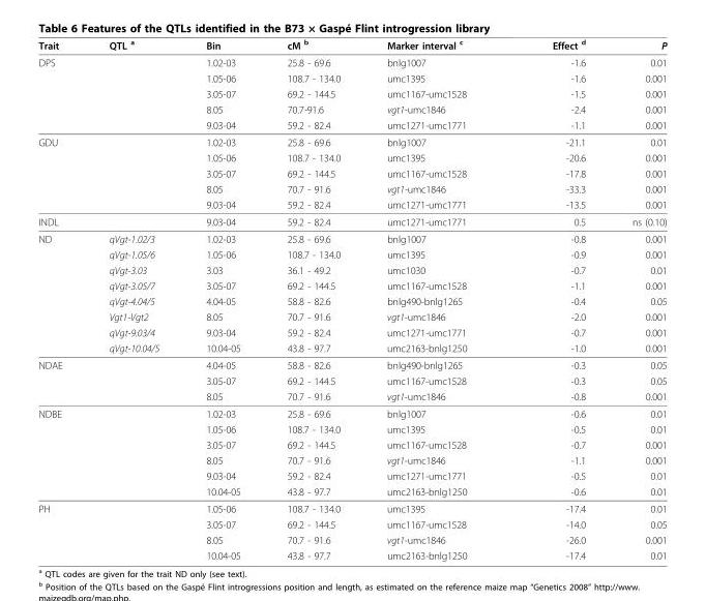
<table><thead><tr><td>Trait</td><td>QTL <sup>a</sup></td><td>Bin</td><td>cM <sup>b</sup></td><td>Marker interval <sup>c</sup></td><td>Effect <sup>d</sup></td><td>P</td></tr></thead><tbody><tr><td rowspan="5">DPS</td><td></td><td>1.02-03</td><td>25.8 - 69.6</td><td>bnlg1007</td><td>-1.6</td><td>0.01</td></tr><tr><td></td><td>1.05-06</td><td>108.7 - 134.0</td><td>umc1395</td><td>-1.6</td><td>0.001</td></tr><tr><td></td><td>3.05-07</td><td>69.2 - 144.5</td><td>umc1167-umc1528</td><td>-1.5</td><td>0.001</td></tr><tr><td></td><td>8.05</td><td>70.7-91.6</td><td>vgt1-umc1846</td><td>-2.4</td><td>0.001</td></tr><tr><td></td><td>9.03-04</td><td>59.2 - 82.4</td><td>umc1271-umc1771</td><td>-1.1</td><td>0.001</td></tr><tr><td rowspan="5">GDU</td><td></td><td>1.02-03</td><td>25.8 - 69.6</td><td>bnlg1007</td><td>-21.1</td><td>0.01</td></tr><tr><td></td><td>1.05-06</td><td>108.7 - 134.0</td><td>umc1395</td><td>-20.6</td><td>0.001</td></tr><tr><td></td><td>3.05-07</td><td>69.2 - 144.5</td><td>umc1167-umc1528</td><td>-17.8</td><td>0.001</td></tr><tr><td></td><td>8.05</td><td>70.7 - 91.6</td><td>vgt1-umc1846</td><td>-33.3</td><td>0.001</td></tr><tr><td></td><td>9.03-04</td><td>59.2 - 82.4</td><td>umc1271-umc1771</td><td>-13.5</td><td>0.001</td></tr><tr><td>INDL</td><td></td><td>9.03-04</td><td>59.2 - 82.4</td><td>umc1271-umc1771</td><td>0.5</td><td>ns (0.10)</td></tr><tr><td rowspan="8">ND</td><td>qVgt-1.02/3</td><td>1.02-03</td><td>25.8 - 69.6</td><td>bnlg1007</td><td>-0.8</td><td>0.001</td></tr><tr><td>qVgt-1.05/6</td><td>1.05-06</td><td>108.7 - 134.0</td><td>umc1395</td><td>-0.9</td><td>0.001</td></tr><tr><td>qVgt-3.03</td><td>3.03</td><td>36.1 - 49.2</td><td>umc1030</td><td>-0.7</td><td>0.01</td></tr><tr><td>qVgt-3.05/7</td><td>3.05-07</td><td>69.2 - 144.5</td><td>umc1167-umc1528</td><td>-1.1</td><td>0.001</td></tr><tr><td>qVgt-4.04/5</td><td>4.04-05</td><td>58.8 - 82.6</td><td>bnlg490-bnlg1265</td><td>-0.4</td><td>0.05</td></tr><tr><td>Vgt1-Vgt2</td><td>8.05</td><td>70.7 - 91.6</td><td>vgt1-umc1846</td><td>-2.0</td><td>0.001</td></tr><tr><td>qVgt-9.03/4</td><td>9.03-04</td><td>59.2 - 82.4</td><td>umc1271-umc1771</td><td>-0.7</td><td>0.001</td></tr><tr><td>qVgt-10.04/5</td><td>10.04-05</td><td>43.8 - 97.7</td><td>umc2163-bnlg1250</td><td>-1.0</td><td>0.001</td></tr><tr><td rowspan="3">NDAE</td><td></td><td>4.04-05</td><td>58.8 - 82.6</td><td>bnlg490-bnlg1265</td><td>-0.3</td><td>0.05</td></tr><tr><td></td><td>3.05-07</td><td>69.2 - 144.5</td><td>umc1167-umc1528</td><td>-0.3</td><td>0.05</td></tr><tr><td></td><td>8.05</td><td>70.7 - 91.6</td><td>vgt1-umc1846</td><td>-0.8</td><td>0.001</td></tr><tr><td rowspan="6">NDBE</td><td></td><td>1.02-03</td><td>25.8 - 69.6</td><td>bnlg1007</td><td>-0.6</td><td>0.01</td></tr><tr><td></td><td>1.05-06</td><td>108.7 - 134.0</td><td>umc1395</td><td>-0.5</td><td>0.01</td></tr><tr><td></td><td>3.05-07</td><td>69.2 - 144.5</td><td>umc1167-umc1528</td><td>-0.7</td><td>0.001</td></tr><tr><td></td><td>8.05</td><td>70.7 - 91.6</td><td>vgt1-umc1846</td><td>-1.1</td><td>0.001</td></tr><tr><td></td><td>9.03-04</td><td>59.2 - 82.4</td><td>umc1271-umc1771</td><td>-0.5</td><td>0.01</td></tr><tr><td></td><td>10.04-05</td><td>43.8 - 97.7</td><td>umc2163-bnlg1250</td><td>-0.6</td><td>0.01</td></tr><tr><td rowspan="4">PH</td><td></td><td>1.05-06</td><td>108.7 - 134.0</td><td>umc1395</td><td>-17.4</td><td>0.01</td></tr><tr><td></td><td>3.05-07</td><td>69.2 - 144.5</td><td>umc1167-umc1528</td><td>-14.0</td><td>0.05</td></tr><tr><td></td><td>8.05</td><td>70.7 - 91.6</td><td>vgt1-umc1846</td><td>-26.0</td><td>0.001</td></tr><tr><td></td><td>10.04-05</td><td>43.8 - 97.7</td><td>umc2163-bnlg1250</td><td>-17.4</td><td>0.01</td></tr></tbody></table>